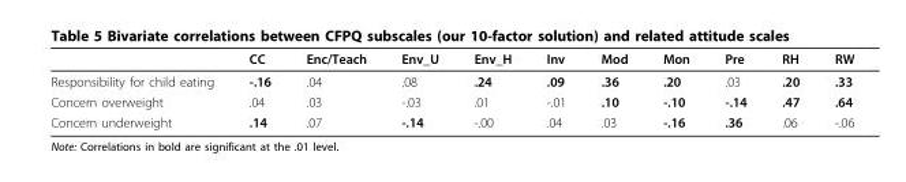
<table><thead><tr><td></td><td>CC</td><td>Enc/Teach</td><td>Env_U</td><td>Env_H</td><td>Inv</td><td>Mod</td><td>Mon</td><td>Pre</td><td>RH</td><td>RW</td></tr></thead><tbody><tr><td>Responsibility for child eating</td><td>-.16</td><td>.04</td><td>.08</td><td>.24</td><td>.09</td><td>.36</td><td>.20</td><td>.03</td><td>.20</td><td>.33</td></tr><tr><td>Concern overweight</td><td>.04</td><td>.03</td><td>-.03</td><td>.01</td><td>-.01</td><td>.10</td><td>-.10</td><td>-.14</td><td>.47</td><td>.64</td></tr><tr><td>Concern underweight</td><td>.14</td><td>.07</td><td>-.14</td><td>-.00</td><td>.04</td><td>.03</td><td>-.16</td><td>.36</td><td>.06</td><td>-.06</td></tr></tbody></table>